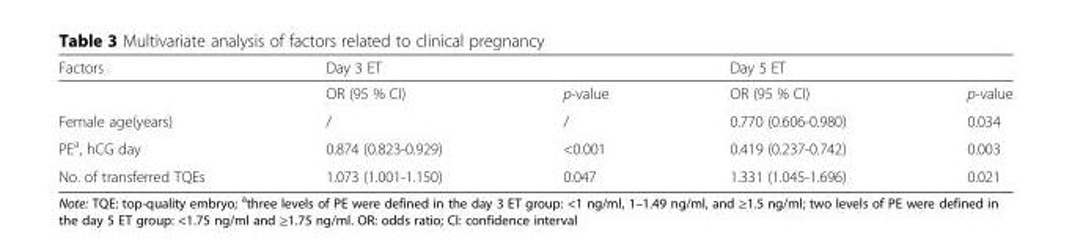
<table><thead><tr><td rowspan="2">Factors</td><td colspan="2">Day 3 ET</td><td colspan="2">Day 5 ET</td></tr><tr><td>OR (95 % CI)</td><td>p-value</td><td>OR (95 % CI)</td><td>p-value</td></tr></thead><tbody><tr><td>Female age(years)</td><td>/</td><td>/</td><td>0.770 (0.606-0.980)</td><td>0.034</td></tr><tr><td>PE<sup>a</sup>, hCG day</td><td>0.874 (0.823-0.929)</td><td>&lt;0.001</td><td>0.419 (0.237-0.742)</td><td>0.003</td></tr><tr><td>No. of transferred TQEs</td><td>1.073 (1.001-1.150)</td><td>0.047</td><td>1.331 (1.045-1.696)</td><td>0.021</td></tr></tbody></table>